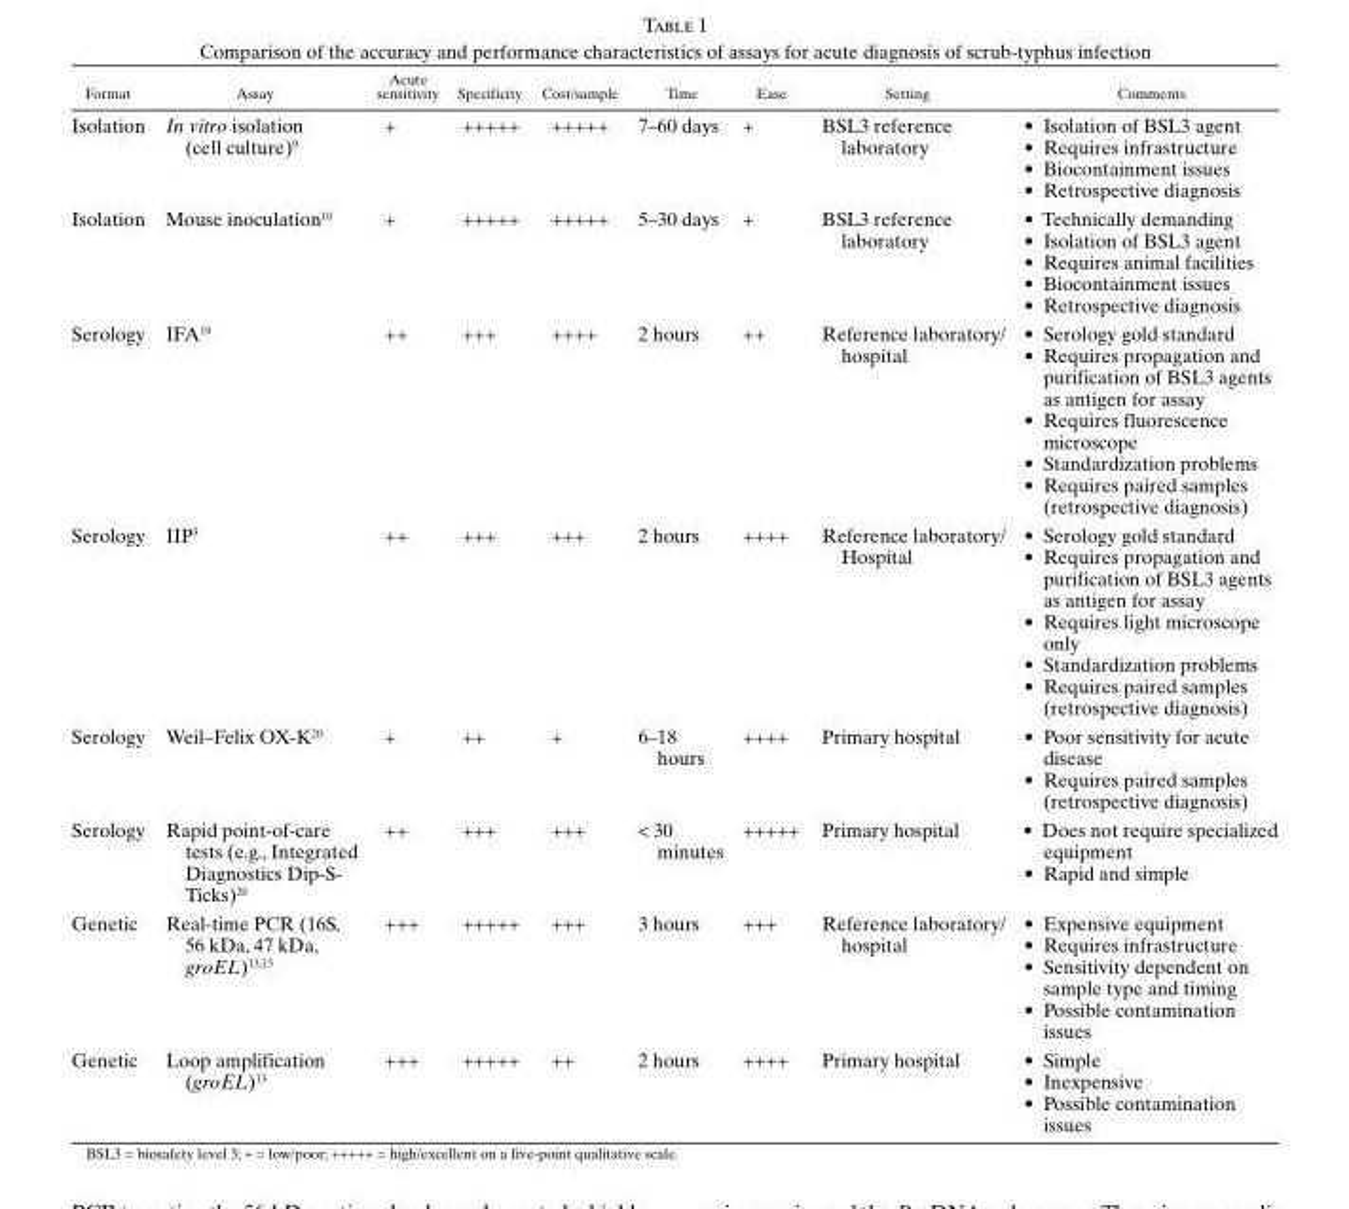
<table><thead><tr><td>Format</td><td>Assay</td><td>Acute sensitivity</td><td>Specificity</td><td>Cost/sample</td><td>Time</td><td>Ease</td><td>Setting</td><td>Comments</td></tr></thead><tbody><tr><td>Isolation</td><td>In vitro isolation (cell culture) <sup>9</sup></td><td>+</td><td>+++++</td><td>+++++</td><td>7–60 days</td><td>+</td><td>BSL3 reference laboratory</td><td>• Isolation of BSL3 agent • Requires infrastructure • Biocontainment issues • Retrospective diagnosis</td></tr><tr><td>Isolation</td><td>Mouse inoculation <sup>10</sup></td><td>+</td><td>+++++</td><td>+++++</td><td>5–30 days</td><td>+</td><td>BSL3 reference laboratory</td><td>• Technically demanding • Isolation of BSL3 agent • Requires animal facilities • Biocontainment issues • Retrospective diagnosis</td></tr><tr><td>Serology</td><td>IFA <sup>19</sup></td><td>++</td><td>+++</td><td>++++</td><td>2 hours</td><td>++</td><td>Reference laboratory/ hospital</td><td>• Serology gold standard • Requires propagation and purification of BSL3 agents as antigen for assay • Requires fluorescence microscope • Standardization problems • Requires paired samples (retrospective diagnosis)</td></tr><tr><td>Serology</td><td>IIP <sup>3</sup></td><td>++</td><td>+++</td><td>+++</td><td>2 hours</td><td>++++</td><td>Reference laboratory/ Hospital</td><td>• Serology gold standard • Requires propagation and purification of BSL3 agents as antigen for assay • Requires light microscope only • Standardization problems • Requires paired samples (retrospective diagnosis)</td></tr><tr><td>Serology</td><td>Weil–Felix OX-K <sup>20</sup></td><td>+</td><td>++</td><td>+</td><td>6–18 hours</td><td>++++</td><td>Primary hospital</td><td>• Poor sensitivity for acute disease • Requires paired samples (retrospective diagnosis)</td></tr><tr><td>Serology</td><td>Rapid point-of-care tests (e.g., Integrated Diagnostics Dip-S- Ticks) <sup>20</sup></td><td>++</td><td>+++</td><td>+++</td><td>&lt; 30 minutes</td><td>+++++</td><td>Primary hospital</td><td>• Does not require specialized equipment • Rapid and simple</td></tr><tr><td>Genetic</td><td>Real-time PCR (16S, 56 kDa, 47 kDa, groEL ) <sup>13</sup> , <sup>15</sup></td><td>+++</td><td>+++++</td><td>+++</td><td>3 hours</td><td>+++</td><td>Reference laboratory/ hospital</td><td>• Expensive equipment • Requires infrastructure • Sensitivity dependent on sample type and timing • Possible contamination issues</td></tr><tr><td>Genetic</td><td>Loop amplification ( groEL ) <sup>13</sup></td><td>+++</td><td>+++++</td><td>++</td><td>2 hours</td><td>++++</td><td>Primary hospital</td><td>• Simple • Inexpensive • Possible contamination issues</td></tr></tbody></table>